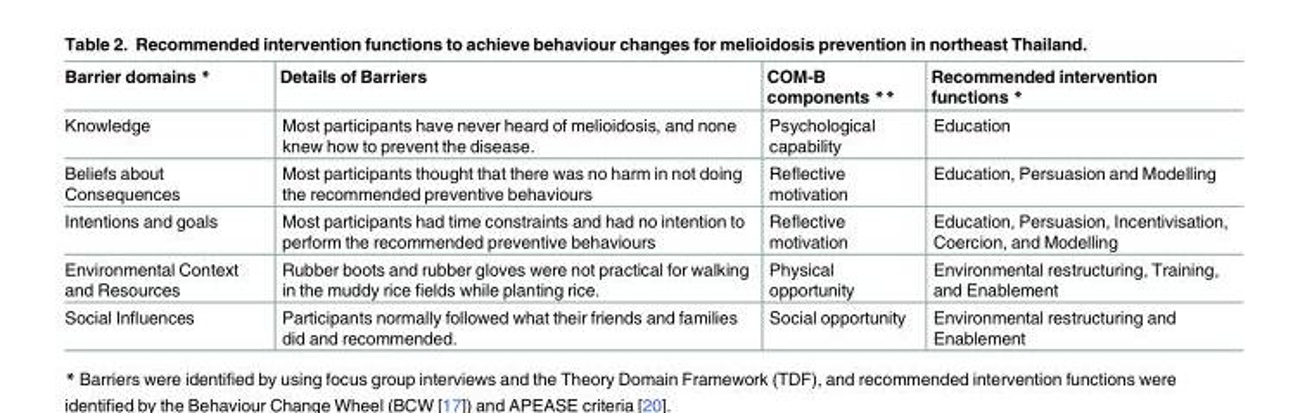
<table><thead><tr><td>Barrier domains *</td><td>Details of Barriers</td><td>COM-B components **</td><td>Recommended intervention functions *</td></tr></thead><tbody><tr><td>Knowledge</td><td>Most participants have never heard of melioidosis, and none knew how to prevent the disease.</td><td>Psychological capability</td><td>Education</td></tr><tr><td>Beliefs about Consequences</td><td>Most participants thought that there was no harm in not doing the recommended preventive behaviours</td><td>Reflective motivation</td><td>Education, Persuasion and Modelling</td></tr><tr><td>Intentions and goals</td><td>Most participants had time constraints and had no intention to perform the recommended preventive behaviours</td><td>Reflective motivation</td><td>Education, Persuasion, Incentivisation, Coercion, and Modelling</td></tr><tr><td>Environmental Context and Resources</td><td>Rubber boots and rubber gloves were not practical for walking in the muddy rice fields while planting rice.</td><td>Physical opportunity</td><td>Environmental restructuring, Training, and Enablement</td></tr><tr><td>Social Influences</td><td>Participants normally followed what their friends and families did and recommended.</td><td>Social opportunity</td><td>Environmental restructuring and Enablement</td></tr></tbody></table>